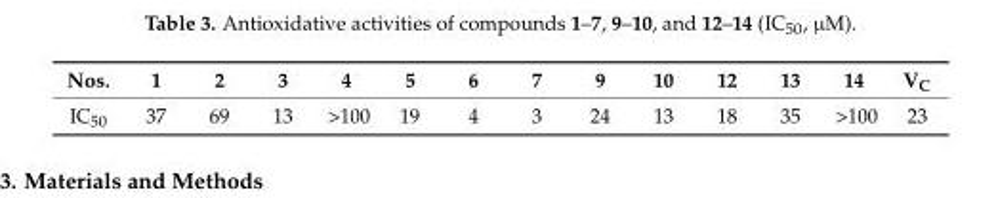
<table><thead><tr><td>Nos.</td><td>1</td><td>2</td><td>3</td><td>4</td><td>5</td><td>6</td><td>7</td><td>9</td><td>10</td><td>12</td><td>13</td><td>14</td><td>V<sub>C</sub></td></tr></thead><tbody><tr><td>IC<sub>50</sub></td><td>37</td><td>69</td><td>13</td><td>&gt;100</td><td>19</td><td>4</td><td>3</td><td>24</td><td>13</td><td>18</td><td>35</td><td>&gt;100</td><td>23</td></tr></tbody></table>